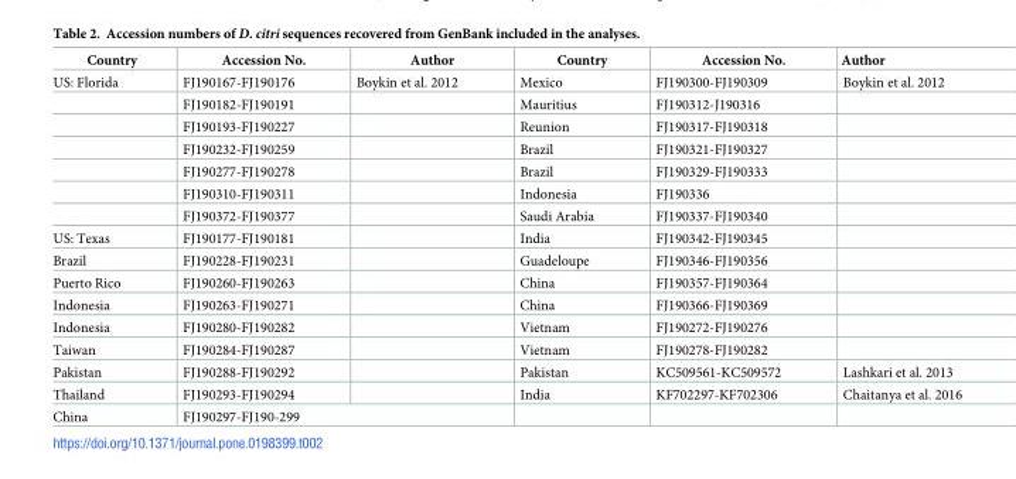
<table><thead><tr><td>Country</td><td>Accession No.</td><td>Author</td><td>Country</td><td>Accession No.</td><td>Author</td></tr></thead><tbody><tr><td rowspan="7">US: Florida</td><td>FJ190167-FJ190176</td><td>Boykin et al. 2012</td><td>Mexico</td><td>FJ190300-FJ190309</td><td>Boykin et al. 2012</td></tr><tr><td>FJ190182-FJ190191</td><td></td><td>Mauritius</td><td>FJ190312-J190316</td><td></td></tr><tr><td>FJ190193-FJ190227</td><td></td><td>Reunion</td><td>FJ190317-FJ190318</td><td></td></tr><tr><td>FJ190232-FJ190259</td><td></td><td>Brazil</td><td>FJ190321-FJ190327</td><td></td></tr><tr><td>FJ190277-FJ190278</td><td></td><td>Brazil</td><td>FJ190329-FJ190333</td><td></td></tr><tr><td>FJ190310-FJ190311</td><td></td><td>Indonesia</td><td>FJ190336</td><td></td></tr><tr><td>FJ190372-FJ190377</td><td></td><td>Saudi Arabia</td><td>FJ190337-FJ190340</td><td></td></tr><tr><td>US: Texas</td><td>FJ190177-FJ190181</td><td></td><td>India</td><td>FJ190342-FJ190345</td><td></td></tr><tr><td>Brazil</td><td>FJ190228-FJ190231</td><td></td><td>Guadeloupe</td><td>FJ190346-FJ190356</td><td></td></tr><tr><td>Puerto Rico</td><td>FJ190260-FJ190263</td><td></td><td>China</td><td>FJ190357-FJ190364</td><td></td></tr><tr><td>Indonesia</td><td>FJ190263-FJ190271</td><td></td><td>China</td><td>FJ190366-FJ190369</td><td></td></tr><tr><td>Indonesia</td><td>FJ190280-FJ190282</td><td></td><td>Vietnam</td><td>FJ190272-FJ190276</td><td></td></tr><tr><td>Taiwan</td><td>FJ190284-FJ190287</td><td></td><td>Vietnam</td><td>FJ190278-FJ190282</td><td></td></tr><tr><td>Pakistan</td><td>FJ190288-FJ190292</td><td></td><td>Pakistan</td><td>KC509561-KC509572</td><td>Lashkari et al. 2013</td></tr><tr><td>Thailand</td><td>FJ190293-FJ190294</td><td></td><td>India</td><td>KF702297-KF702306</td><td>Chaitanya et al. 2016</td></tr><tr><td>China</td><td colspan="2">FJ190297-FJ190-299</td><td></td><td></td><td></td></tr></tbody></table>